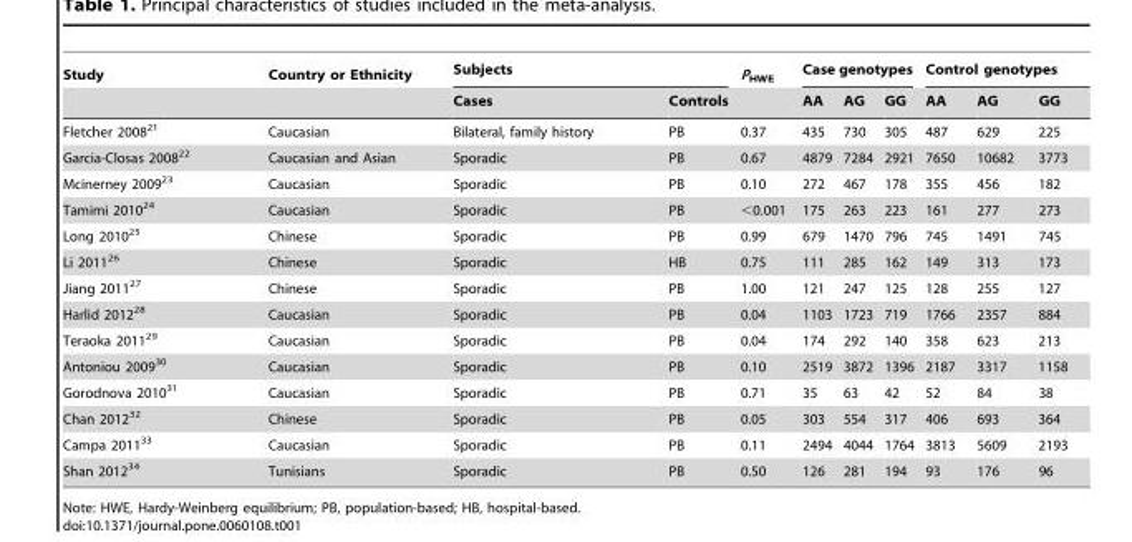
<table><thead><tr><td rowspan="2">Study</td><td rowspan="2">Country or Ethnicity</td><td colspan="2">Subjects</td><td rowspan="2">P<sub>HWE</sub></td><td colspan="3">Case genotypes</td><td colspan="3">Control genotypes</td></tr><tr><td>Cases</td><td>Controls</td><td>AA</td><td>AG</td><td>GG</td><td>AA</td><td>AG</td><td>GG</td></tr></thead><tbody><tr><td>Fletcher 2008<sup>21</sup></td><td>Caucasian</td><td>Bilateral, family history</td><td>PB</td><td>0.37</td><td>435</td><td>730</td><td>305</td><td>487</td><td>629</td><td>225</td></tr><tr><td>Garcia-Closas 2008<sup>22</sup></td><td>Caucasian and Asian</td><td>Sporadic</td><td>PB</td><td>0.67</td><td>4879</td><td>7284</td><td>2921</td><td>7650</td><td>10682</td><td>3773</td></tr><tr><td>Mcinerney 2009<sup>23</sup></td><td>Caucasian</td><td>Sporadic</td><td>PB</td><td>0.10</td><td>272</td><td>467</td><td>178</td><td>355</td><td>456</td><td>182</td></tr><tr><td>Tamimi 2010<sup>24</sup></td><td>Caucasian</td><td>Sporadic</td><td>PB</td><td>&lt;0.001</td><td>175</td><td>263</td><td>223</td><td>161</td><td>277</td><td>273</td></tr><tr><td>Long 2010<sup>25</sup></td><td>Chinese</td><td>Sporadic</td><td>PB</td><td>0.99</td><td>679</td><td>1470</td><td>796</td><td>745</td><td>1491</td><td>745</td></tr><tr><td>Li 2011<sup>26</sup></td><td>Chinese</td><td>Sporadic</td><td>HB</td><td>0.75</td><td>111</td><td>285</td><td>162</td><td>149</td><td>313</td><td>173</td></tr><tr><td>Jiang 2011<sup>27</sup></td><td>Chinese</td><td>Sporadic</td><td>PB</td><td>1.00</td><td>121</td><td>247</td><td>125</td><td>128</td><td>255</td><td>127</td></tr><tr><td>Harlid 2012<sup>28</sup></td><td>Caucasian</td><td>Sporadic</td><td>PB</td><td>0.04</td><td>1103</td><td>1723</td><td>719</td><td>1766</td><td>2357</td><td>884</td></tr><tr><td>Teraoka 2011<sup>29</sup></td><td>Caucasian</td><td>Sporadic</td><td>PB</td><td>0.04</td><td>174</td><td>292</td><td>140</td><td>358</td><td>623</td><td>213</td></tr><tr><td>Antoniou 2009<sup>30</sup></td><td>Caucasian</td><td>Sporadic</td><td>PB</td><td>0.10</td><td>2519</td><td>3872</td><td>1396</td><td>2187</td><td>3317</td><td>1158</td></tr><tr><td>Gorodnova 2010<sup>31</sup></td><td>Caucasian</td><td>Sporadic</td><td>PB</td><td>0.71</td><td>35</td><td>63</td><td>42</td><td>52</td><td>84</td><td>38</td></tr><tr><td>Chan 2012<sup>32</sup></td><td>Chinese</td><td>Sporadic</td><td>PB</td><td>0.05</td><td>303</td><td>554</td><td>317</td><td>406</td><td>693</td><td>364</td></tr><tr><td>Campa 2011<sup>33</sup></td><td>Caucasian</td><td>Sporadic</td><td>PB</td><td>0.11</td><td>2494</td><td>4044</td><td>1764</td><td>3813</td><td>5609</td><td>2193</td></tr><tr><td>Shan 2012<sup>34</sup></td><td>Tunisians</td><td>Sporadic</td><td>PB</td><td>0.50</td><td>126</td><td>281</td><td>194</td><td>93</td><td>176</td><td>96</td></tr></tbody></table>